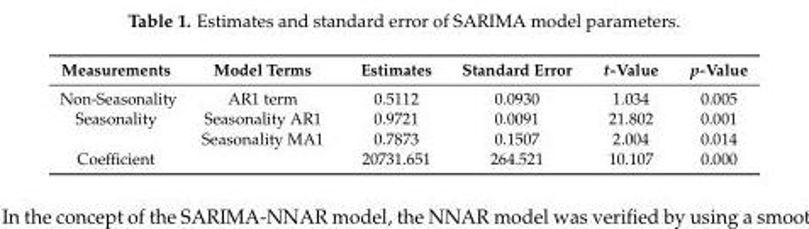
<table><thead><tr><td>Measurements</td><td>Model Terms</td><td>Estimates</td><td>Standard Error</td><td>t-Value</td><td>p-Value</td></tr></thead><tbody><tr><td>Non-Seasonality</td><td>AR1 term</td><td>0.5112</td><td>0.0930</td><td>1.034</td><td>0.005</td></tr><tr><td rowspan="2">Seasonality</td><td>Seasonality AR1</td><td>0.9721</td><td>0.0091</td><td>21.802</td><td>0.001</td></tr><tr><td>Seasonality MA1</td><td>0.7873</td><td>0.1507</td><td>2.004</td><td>0.014</td></tr><tr><td>Coefficient</td><td></td><td>20731.651</td><td>264.521</td><td>10.107</td><td>0.000</td></tr></tbody></table>